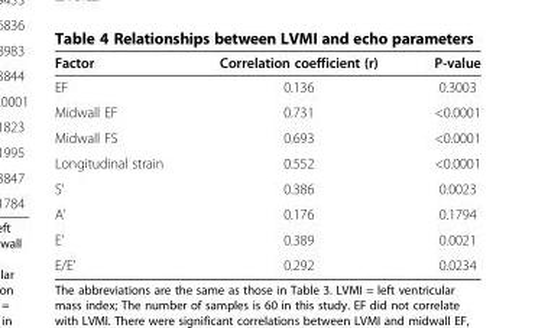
<table><thead><tr><td>Factor</td><td>Correlation coefficient (r)</td><td>P-value</td></tr></thead><tbody><tr><td>EF</td><td>0.136</td><td>0.3003</td></tr><tr><td>Midwall EF</td><td>0.731</td><td>&lt;0.0001</td></tr><tr><td>Midwall FS</td><td>0.693</td><td>&lt;0.0001</td></tr><tr><td>Longitudinal strain</td><td>0.552</td><td>&lt;0.0001</td></tr><tr><td>S’</td><td>0.386</td><td>0.0023</td></tr><tr><td>A’</td><td>0.176</td><td>0.1794</td></tr><tr><td>E’</td><td>0.389</td><td>0.0021</td></tr><tr><td>E/E’</td><td>0.292</td><td>0.0234</td></tr></tbody></table>